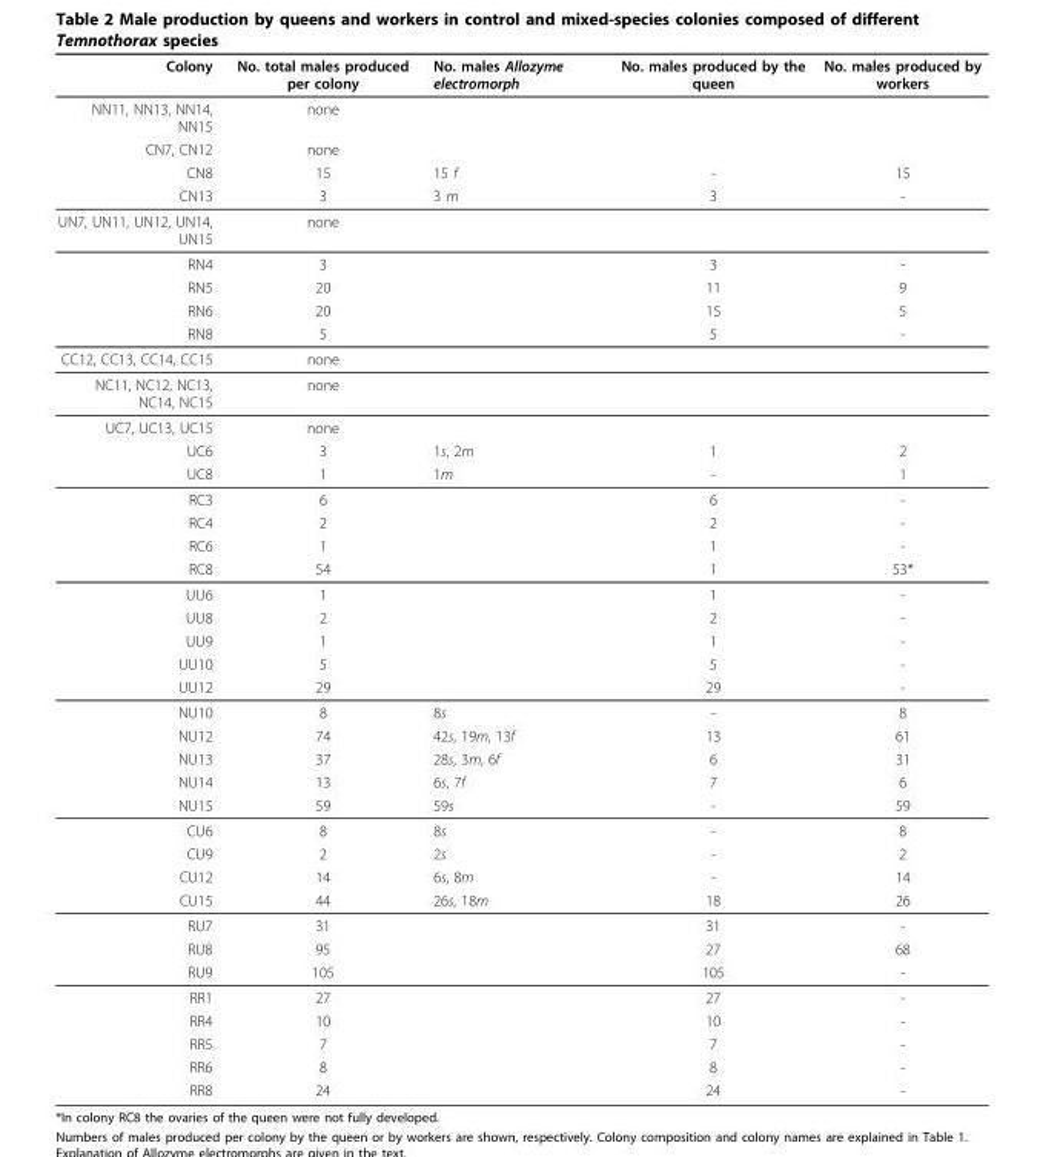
<table><thead><tr><td>Colony</td><td>No. total males produced per colony</td><td>No. males Allozyme electromorph</td><td>No. males produced by the queen</td><td>No. males produced by workers</td></tr></thead><tbody><tr><td>NN11, NN13, NN14, NN15</td><td>none</td><td></td><td></td><td></td></tr><tr><td>CN7, CN12</td><td>none</td><td></td><td></td><td></td></tr><tr><td>CN8</td><td>15</td><td>15 f</td><td>-</td><td>15</td></tr><tr><td>CN13</td><td>3</td><td>3 m</td><td>3</td><td>-</td></tr><tr><td>UN7, UN11, UN12, UN14, UN15</td><td>none</td><td></td><td></td><td></td></tr><tr><td>RN4</td><td>3</td><td></td><td>3</td><td>-</td></tr><tr><td>RN5</td><td>20</td><td></td><td>11</td><td>9</td></tr><tr><td>RN6</td><td>20</td><td></td><td>15</td><td>5</td></tr><tr><td>RN8</td><td>5</td><td></td><td>5</td><td>-</td></tr><tr><td>CC12, CC13, CC14, CC15</td><td>none</td><td></td><td></td><td></td></tr><tr><td>NC11, NC12, NC13, NC14, NC15</td><td>none</td><td></td><td></td><td></td></tr><tr><td>UC7, UC13, UC15</td><td>none</td><td></td><td></td><td></td></tr><tr><td>UC6</td><td>3</td><td>1s, 2m</td><td>1</td><td>2</td></tr><tr><td>UC8</td><td>1</td><td>1m</td><td>-</td><td>1</td></tr><tr><td>RC3</td><td>6</td><td></td><td>6</td><td>-</td></tr><tr><td>RC4</td><td>2</td><td></td><td>2</td><td>-</td></tr><tr><td>RC6</td><td>1</td><td></td><td>1</td><td>-</td></tr><tr><td>RC8</td><td>54</td><td></td><td>1</td><td>53*</td></tr><tr><td>UU6</td><td>1</td><td></td><td>1</td><td>-</td></tr><tr><td>UU8</td><td>2</td><td></td><td>2</td><td>-</td></tr><tr><td>UU9</td><td>1</td><td></td><td>1</td><td>-</td></tr><tr><td>UU10</td><td>5</td><td></td><td>5</td><td>-</td></tr><tr><td>UU12</td><td>29</td><td></td><td>29</td><td>-</td></tr><tr><td>NU10</td><td>8</td><td>8s</td><td>-</td><td>8</td></tr><tr><td>NU12</td><td>74</td><td>42s, 19m, 13f</td><td>13</td><td>61</td></tr><tr><td>NU13</td><td>37</td><td>28s, 3m, 6f</td><td>6</td><td>31</td></tr><tr><td>NU14</td><td>13</td><td>6s, 7f</td><td>7</td><td>6</td></tr><tr><td>NU15</td><td>59</td><td>59s</td><td>-</td><td>59</td></tr><tr><td>CU6</td><td>8</td><td>8s</td><td>-</td><td>8</td></tr><tr><td>CU9</td><td>2</td><td>2s</td><td>-</td><td>2</td></tr><tr><td>CU12</td><td>14</td><td>6s, 8m</td><td>-</td><td>14</td></tr><tr><td>CU15</td><td>44</td><td>26s, 18m</td><td>18</td><td>26</td></tr><tr><td>RU7</td><td>31</td><td></td><td>31</td><td>-</td></tr><tr><td>RU8</td><td>95</td><td></td><td>27</td><td>68</td></tr><tr><td>RU9</td><td>105</td><td></td><td>105</td><td>-</td></tr><tr><td>RR1</td><td>27</td><td></td><td>27</td><td>-</td></tr><tr><td>RR4</td><td>10</td><td></td><td>10</td><td>-</td></tr><tr><td>RR5</td><td>7</td><td></td><td>7</td><td>-</td></tr><tr><td>RR6</td><td>8</td><td></td><td>8</td><td>-</td></tr><tr><td>RR8</td><td>24</td><td></td><td>24</td><td>-</td></tr></tbody></table>